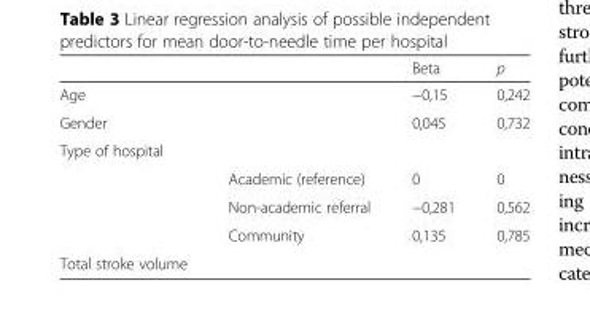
<table><thead><tr><td></td><td></td><td>Beta</td><td>p</td></tr></thead><tbody><tr><td>Age</td><td></td><td>−0,15</td><td>0,242</td></tr><tr><td>Gender</td><td></td><td>0,045</td><td>0,732</td></tr><tr><td colspan="4">Type of hospital</td></tr><tr><td></td><td>Academic (reference)</td><td>0</td><td>0</td></tr><tr><td></td><td>Non-academic referral</td><td>−0,281</td><td>0,562</td></tr><tr><td></td><td>Community</td><td>0,135</td><td>0,785</td></tr><tr><td>Total stroke volume</td><td></td><td></td><td></td></tr></tbody></table>